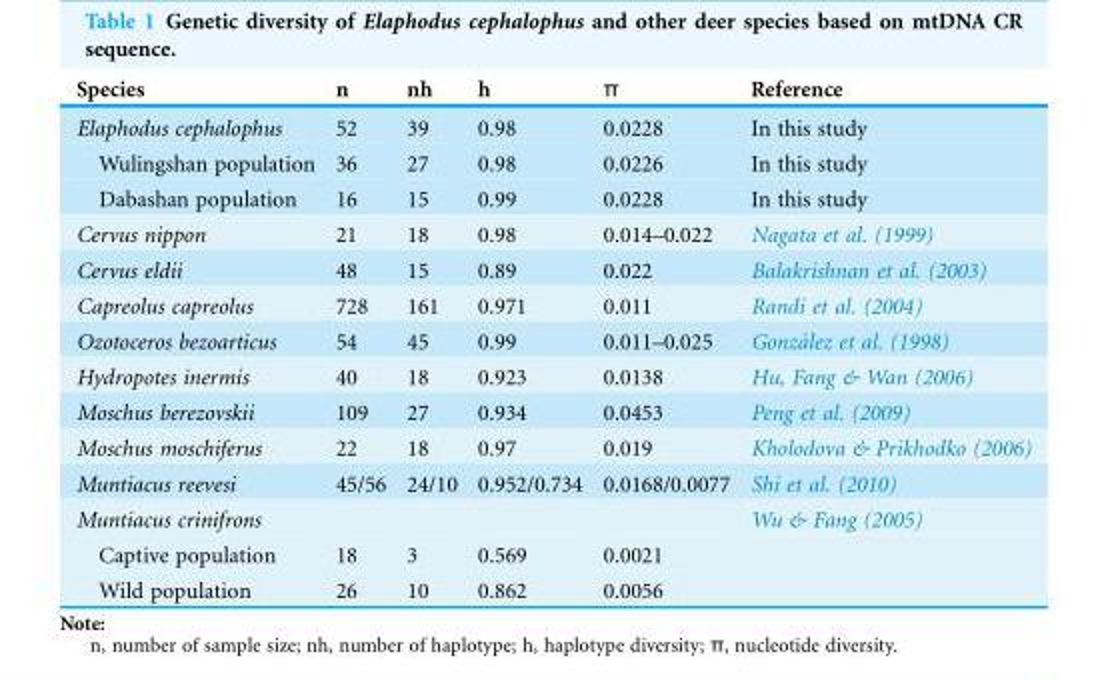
<table><thead><tr><td>Species</td><td>n</td><td>nh</td><td>h</td><td>π</td><td>Reference</td></tr></thead><tbody><tr><td>Elaphodus cephalophus</td><td>52</td><td>39</td><td>0.98</td><td>0.0228</td><td>In this study</td></tr><tr><td>Wulingshan population</td><td>36</td><td>27</td><td>0.98</td><td>0.0226</td><td>In this study</td></tr><tr><td>Dabashan population</td><td>16</td><td>15</td><td>0.99</td><td>0.0228</td><td>In this study</td></tr><tr><td>Cervus nippon</td><td>21</td><td>18</td><td>0.98</td><td>0.014–0.022</td><td>Nagata et al. (1999)</td></tr><tr><td>Cervus eldii</td><td>48</td><td>15</td><td>0.89</td><td>0.022</td><td>Balakrishnan et al. (2003)</td></tr><tr><td>Capreolus capreolus</td><td>728</td><td>161</td><td>0.971</td><td>0.011</td><td>Randi et al. (2004)</td></tr><tr><td>Ozotoceros bezoarticus</td><td>54</td><td>45</td><td>0.99</td><td>0.011–0.025</td><td>Gonza´lez et al. (1998)</td></tr><tr><td>Hydropotes inermis</td><td>40</td><td>18</td><td>0.923</td><td>0.0138</td><td>Hu, Fang &amp; Wan (2006)</td></tr><tr><td>Moschus berezovskii</td><td>109</td><td>27</td><td>0.934</td><td>0.0453</td><td>Peng et al. (2009)</td></tr><tr><td>Moschus moschiferus</td><td>22</td><td>18</td><td>0.97</td><td>0.019</td><td>Kholodova &amp; Prikhodko (2006)</td></tr><tr><td>Muntiacus reevesi</td><td>45/56</td><td>24/10</td><td>0.952/0.734</td><td>0.0168/0.0077</td><td>Shi et al. (2010)</td></tr><tr><td>Muntiacus crinifrons</td><td></td><td></td><td></td><td></td><td>Wu &amp; Fang (2005)</td></tr><tr><td>Captive population</td><td>18</td><td>3</td><td>0.569</td><td>0.0021</td><td></td></tr><tr><td>Wild population</td><td>26</td><td>10</td><td>0.862</td><td>0.0056</td><td></td></tr></tbody></table>